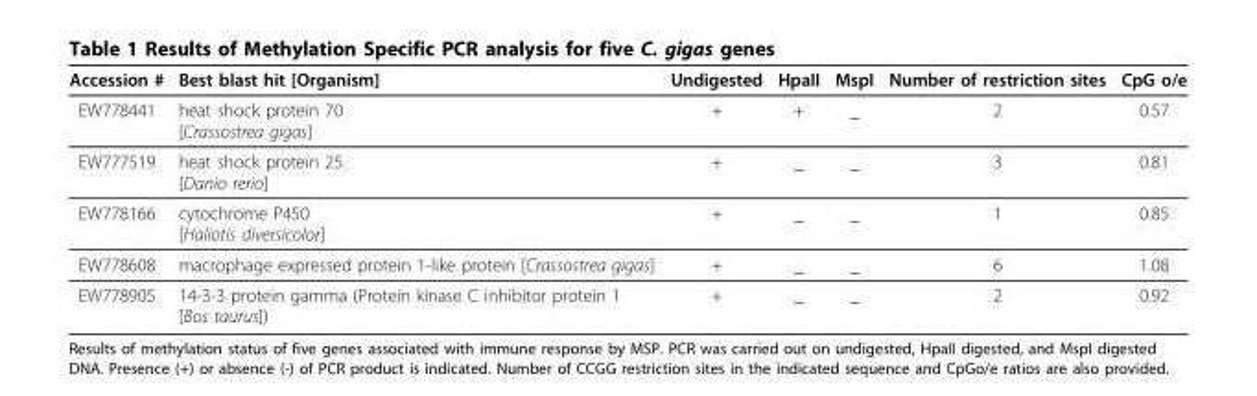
<table><thead><tr><td>Accession #</td><td>Best blast hit [Organism]</td><td>Undigested</td><td>HpaII</td><td>MspI</td><td>Number of restriction sites</td><td>CpG o/e</td></tr></thead><tbody><tr><td>EW778441</td><td>heat shock protein 70 [Crassostrea gigas]</td><td>+</td><td>+</td><td>_</td><td>2</td><td>0.57</td></tr><tr><td>EW777519</td><td>heat shock protein 25 [Danio rerio]</td><td>+</td><td>_</td><td>_</td><td>3</td><td>0.81</td></tr><tr><td>EW778166</td><td>cytochrome P450 [Haliotis diversicolor]</td><td>+</td><td>_</td><td>_</td><td>1</td><td>0.85</td></tr><tr><td>EW778608</td><td>macrophage expressed protein 1-like protein [Crassostrea gigas]</td><td>+</td><td>_</td><td>_</td><td>6</td><td>1.08</td></tr><tr><td>EW778905</td><td>14-3-3 protein gamma (Protein kinase C inhibitor protein 1 [Bos taurus])</td><td>+</td><td>_</td><td>_</td><td>2</td><td>0.92</td></tr></tbody></table>